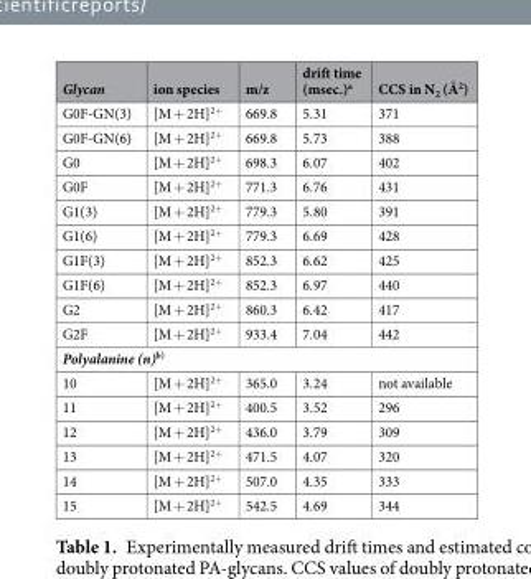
<table><thead><tr><td>Glycan</td><td>ion species</td><td>m/z</td><td>drift time (msec.)<sup>a</sup></td><td>CCS in N<sub>2</sub> (Å<sup>2</sup>)</td></tr></thead><tbody><tr><td>G0F-GN(3)</td><td>[M + 2H]<sup>2+</sup></td><td>669.8</td><td>5.31</td><td>371</td></tr><tr><td>G0F-GN(6)</td><td>[M + 2H]<sup>2+</sup></td><td>669.8</td><td>5.73</td><td>388</td></tr><tr><td>G0</td><td>[M + 2H]<sup>2+</sup></td><td>698.3</td><td>6.07</td><td>402</td></tr><tr><td>G0F</td><td>[M + 2H]<sup>2+</sup></td><td>771.3</td><td>6.76</td><td>431</td></tr><tr><td>G1(3)</td><td>[M + 2H]<sup>2+</sup></td><td>779.3</td><td>5.80</td><td>391</td></tr><tr><td>G1(6)</td><td>[M + 2H]<sup>2+</sup></td><td>779.3</td><td>6.69</td><td>428</td></tr><tr><td>G1F(3)</td><td>[M + 2H]<sup>2+</sup></td><td>852.3</td><td>6.62</td><td>425</td></tr><tr><td>G1F(6)</td><td>[M + 2H]<sup>2+</sup></td><td>852.3</td><td>6.97</td><td>440</td></tr><tr><td>G2</td><td>[M + 2H]<sup>2+</sup></td><td>860.3</td><td>6.42</td><td>417</td></tr><tr><td>G2F</td><td>[M + 2H]<sup>2+</sup></td><td>933.4</td><td>7.04</td><td>442</td></tr><tr><td colspan="5">Polyalanine (n)<sup>b)</sup></td></tr><tr><td>10</td><td>[M + 2H]<sup>2+</sup></td><td>365.0</td><td>3.24</td><td>not available</td></tr><tr><td>11</td><td>[M + 2H]<sup>2+</sup></td><td>400.5</td><td>3.52</td><td>296</td></tr><tr><td>12</td><td>[M + 2H]<sup>2+</sup></td><td>436.0</td><td>3.79</td><td>309</td></tr><tr><td>13</td><td>[M + 2H]<sup>2+</sup></td><td>471.5</td><td>4.07</td><td>320</td></tr><tr><td>14</td><td>[M + 2H]<sup>2+</sup></td><td>507.0</td><td>4.35</td><td>333</td></tr><tr><td>15</td><td>[M + 2H]<sup>2+</sup></td><td>542.5</td><td>4.69</td><td>344</td></tr></tbody></table>